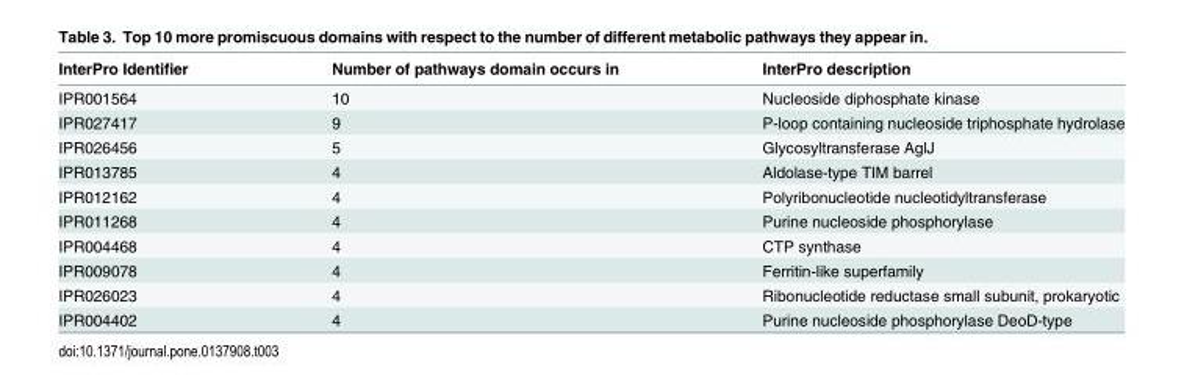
<table><thead><tr><td>InterPro Identifier</td><td>Number of pathways domain occurs in</td><td>InterPro description</td></tr></thead><tbody><tr><td>IPR001564</td><td>10</td><td>Nucleoside diphosphate kinase</td></tr><tr><td>IPR027417</td><td>9</td><td>P-loop containing nucleoside triphosphate hydrolase</td></tr><tr><td>IPR026456</td><td>5</td><td>Glycosyltransferase AglJ</td></tr><tr><td>IPR013785</td><td>4</td><td>Aldolase-type TIM barrel</td></tr><tr><td>IPR012162</td><td>4</td><td>Polyribonucleotide nucleotidyltransferase</td></tr><tr><td>IPR011268</td><td>4</td><td>Purine nucleoside phosphorylase</td></tr><tr><td>IPR004468</td><td>4</td><td>CTP synthase</td></tr><tr><td>IPR009078</td><td>4</td><td>Ferritin-like superfamily</td></tr><tr><td>IPR026023</td><td>4</td><td>Ribonucleotide reductase small subunit, prokaryotic</td></tr><tr><td>IPR004402</td><td>4</td><td>Purine nucleoside phosphorylase DeoD-type</td></tr></tbody></table>